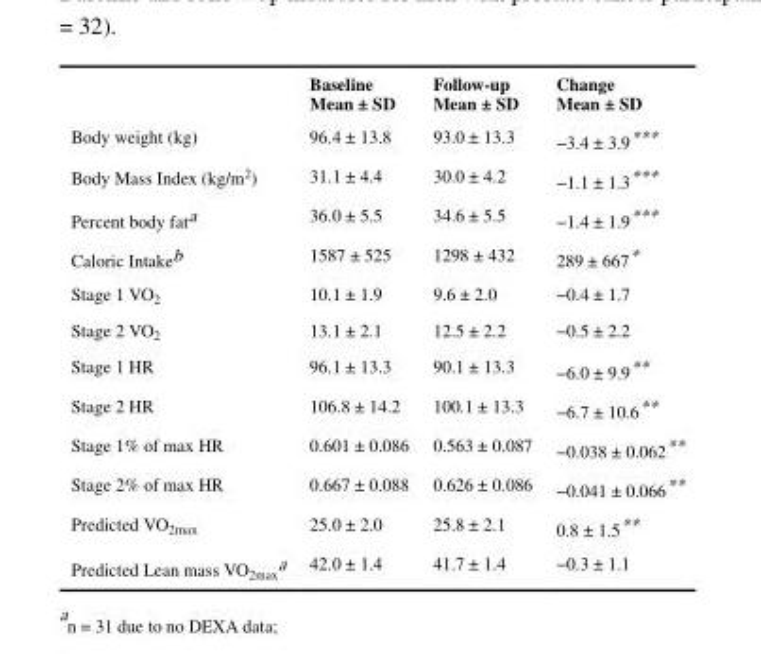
<table><thead><tr><td></td><td>Baseline Mean ± SD</td><td>Follow-up Mean ± SD</td><td>Change Mean ± SD</td></tr></thead><tbody><tr><td>Body weight (kg)</td><td>96.4 ± 13.8</td><td>93.0 ± 13.3</td><td>−3.4 ± 3.9***</td></tr><tr><td>Body Mass Index (kg/m<sup>2</sup>)</td><td>31.1 ± 4.4</td><td>30.0 ± 4.2</td><td>−1.1 ± 1.3***</td></tr><tr><td>Percent body fat<sup>a</sup></td><td>36.0 ± 5.5</td><td>34.6 ± 5.5</td><td>−1.4 ± 1.9***</td></tr><tr><td>Caloric Intake<sup>b</sup></td><td>1587 ± 525</td><td>1298 ± 432</td><td>289 ± 667*</td></tr><tr><td>Stage 1 VO<sub>2</sub></td><td>10.1 ± 1.9</td><td>9.6 ± 2.0</td><td>−0.4 ± 1.7</td></tr><tr><td>Stage 2 VO<sub>2</sub></td><td>13.1 ± 2.1</td><td>12.5 ± 2.2</td><td>−0.5 ± 2.2</td></tr><tr><td>Stage 1 HR</td><td>96.1 ± 13.3</td><td>90.1 ± 13.3</td><td>−6.0 ± 9.9**</td></tr><tr><td>Stage 2 HR</td><td>106.8 ± 14.2</td><td>100.1 ± 13.3</td><td>−6.7 ± 10.6**</td></tr><tr><td>Stage 1% of max HR</td><td>0.601 ± 0.086</td><td>0.563 ± 0.087</td><td>−0.038 ± 0.062**</td></tr><tr><td>Stage 2% of max HR</td><td>0.667 ± 0.088</td><td>0.626 ± 0.086</td><td>−0.041 ± 0.066**</td></tr><tr><td>Predicted VO<sub>2max</sub></td><td>25.0 ± 2.0</td><td>25.8 ± 2.1</td><td>0.8 ± 1.5**</td></tr><tr><td>Predicted Lean mass VO<sub>2max</sub><sup>a</sup></td><td>42.0 ± 1.4</td><td>41.7 ± 1.4</td><td>−0.3 ± 1.1</td></tr></tbody></table>